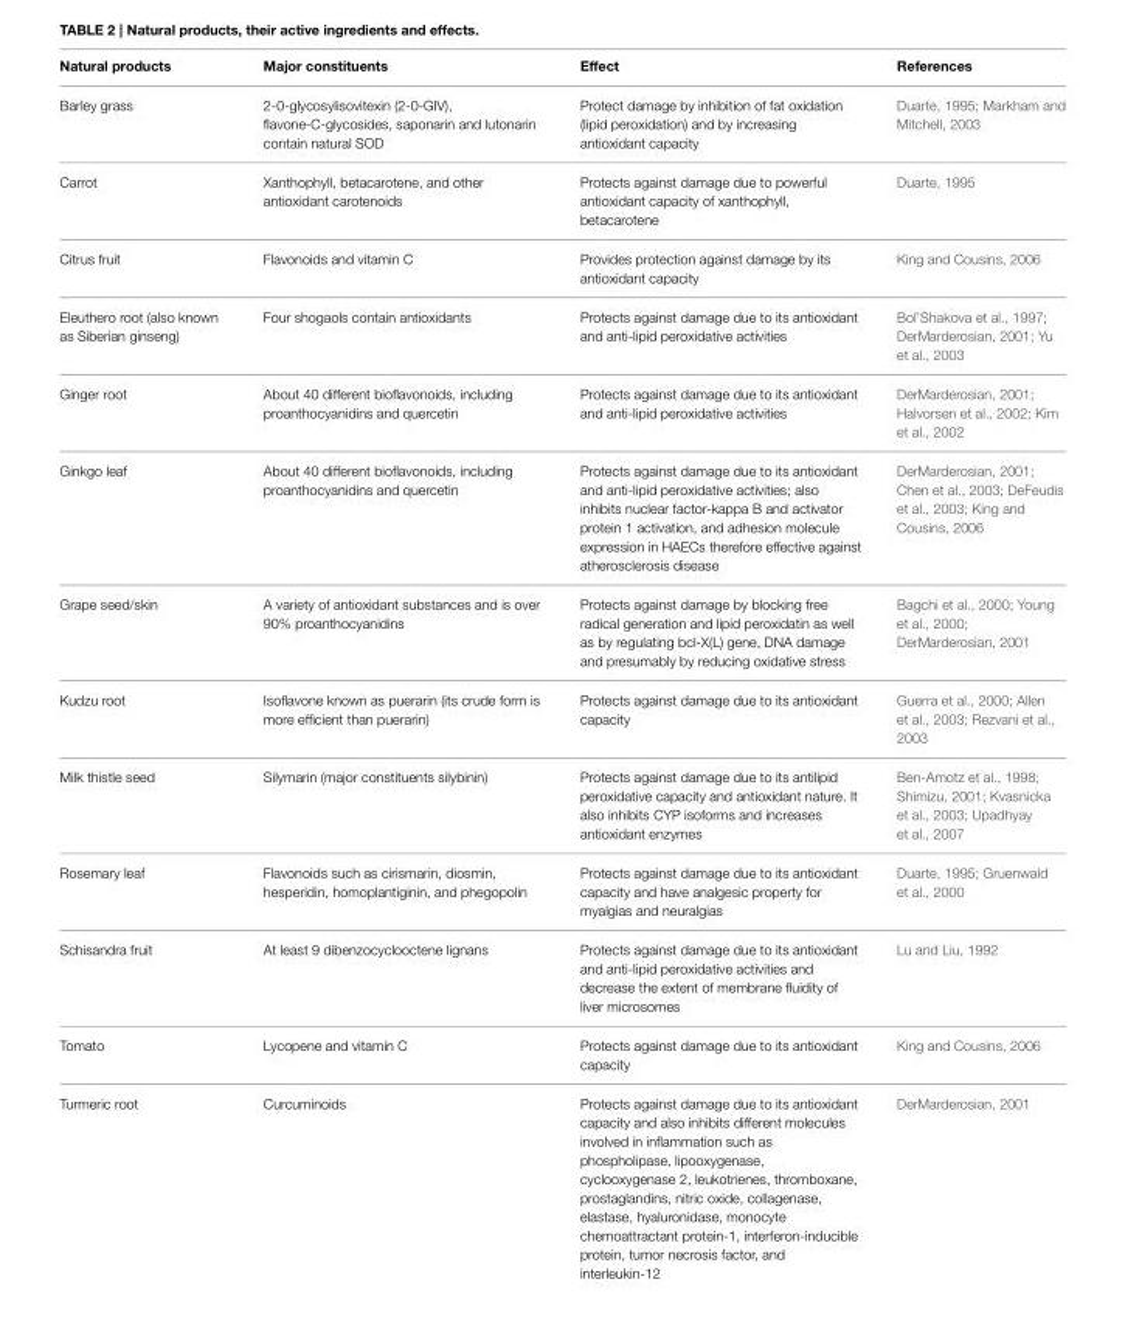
<table><thead><tr><td>Natural products</td><td>Major constituents</td><td>Effect</td><td>References</td></tr></thead><tbody><tr><td>Barley grass</td><td>2-0-glycosylisovitexin (2-0-GIV), flavone-C-glycosides, saponarin and lutonarin contain natural SOD</td><td>Protect damage by inhibition of fat oxidation (lipid peroxidation) and by increasing antioxidant capacity</td><td>Duarte, 1995; Markham and Mitchell, 2003</td></tr><tr><td>Carrot</td><td>Xanthophyll, betacarotene, and other antioxidant carotenoids</td><td>Protects against damage due to powerful antioxidant capacity of xanthophyll, betacarotene</td><td>Duarte, 1995</td></tr><tr><td>Citrus fruit</td><td>Flavonoids and vitamin C</td><td>Provides protection against damage by its antioxidant capacity</td><td>King and Cousins, 2006</td></tr><tr><td>Eleuthero root (also known as Siberian ginseng)</td><td>Four shogaols contain antioxidants</td><td>Protects against damage due to its antioxidant and anti-lipid peroxidative activities</td><td>Bol’Shakova et al., 1997; DerMarderosian, 2001; Yu et al., 2003</td></tr><tr><td>Ginger root</td><td>About 40 different bioflavonoids, including proanthocyanidins and quercetin</td><td>Protects against damage due to its antioxidant and anti-lipid peroxidative activities</td><td>DerMarderosian, 2001; Halvorsen et al., 2002; Kim et al., 2002</td></tr><tr><td>Ginkgo leaf</td><td>About 40 different bioflavonoids, including proanthocyanidins and quercetin</td><td>Protects against damage due to its antioxidant and anti-lipid peroxidative activities; also inhibits nuclear factor-kappa B and activator protein 1 activation, and adhesion molecule expression in HAECs therefore effective against atherosclerosis disease</td><td>DerMarderosian, 2001; Chen et al., 2003; DeFeudis et al., 2003; King and Cousins, 2006</td></tr><tr><td>Grape seed/skin</td><td>A variety of antioxidant substances and is over 90% proanthocyanidins</td><td>Protects against damage by blocking free radical generation and lipid peroxidatin as well as by regulating bcl-X(L) gene, DNA damage and presumably by reducing oxidative stress</td><td>Bagchi et al., 2000; Young et al., 2000; DerMarderosian, 2001</td></tr><tr><td>Kudzu root</td><td>Isoflavone known as puerarin (its crude form is more efficient than puerarin)</td><td>Protects against damage due to its antioxidant capacity</td><td>Guerra et al., 2000; Allen et al., 2003; Rezvani et al., 2003</td></tr><tr><td>Milk thistle seed</td><td>Silymarin (major constituents silybinin)</td><td>Protects against damage due to its antilipid peroxidative capacity and antioxidant nature. It also inhibits CYP isoforms and increases antioxidant enzymes</td><td>Ben-Amotz et al., 1998; Shimizu, 2001; Kvasnicka et al., 2003; Upadhyay et al., 2007</td></tr><tr><td>Rosemary leaf</td><td>Flavonoids such as cirismarin, diosmin, hesperidin, homoplantiginin, and phegopolin</td><td>Protects against damage due to its antioxidant capacity and have analgesic property for myalgias and neuralgias</td><td>Duarte, 1995; Gruenwald et al., 2000</td></tr><tr><td>Schisandra fruit</td><td>At least 9 dibenzocyclooctene lignans</td><td>Protects against damage due to its antioxidant and anti-lipid peroxidative activities and decrease the extent of membrane fluidity of liver microsomes</td><td>Lu and Liu, 1992</td></tr><tr><td>Tomato</td><td>Lycopene and vitamin C</td><td>Protects against damage due to its antioxidant capacity</td><td>King and Cousins, 2006</td></tr><tr><td>Turmeric root</td><td>Curcuminoids</td><td>Protects against damage due to its antioxidant capacity and also inhibits different molecules involved in inflammation such as phospholipase, lipooxygenase, cyclooxygenase 2, leukotrienes, thromboxane, prostaglandins, nitric oxide, collagenase, elastase, hyaluronidase, monocyte chemoattractant protein-1, interferon-inducible protein, tumor necrosis factor, and interleukin-12</td><td>DerMarderosian, 2001</td></tr></tbody></table>